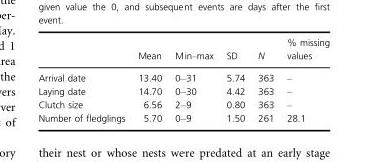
<table><thead><tr><td></td><td>Mean</td><td>Min–max</td><td>SD</td><td>N</td><td>% missing values</td></tr></thead><tbody><tr><td>Arrival date</td><td>13.40</td><td>0–31</td><td>5.74</td><td>363</td><td>–</td></tr><tr><td>Laying date</td><td>14.70</td><td>0–30</td><td>4.42</td><td>363</td><td>–</td></tr><tr><td>Clutch size</td><td>6.56</td><td>2–9</td><td>0.80</td><td>363</td><td>–</td></tr><tr><td>Number of fledglings</td><td>5.70</td><td>0–9</td><td>1.50</td><td>261</td><td>28.1</td></tr></tbody></table>